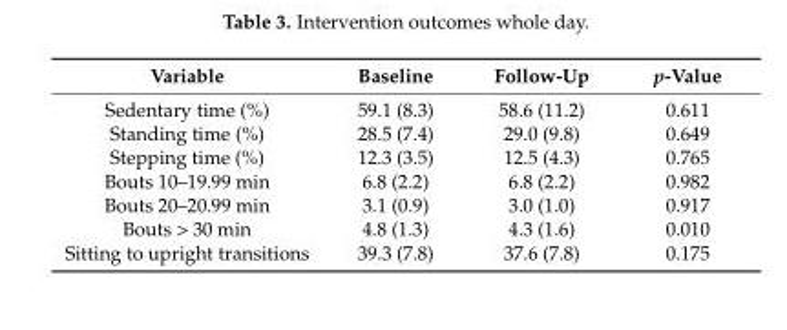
<table><thead><tr><td>Variable</td><td>Baseline</td><td>Follow-Up</td><td>p-Value</td></tr></thead><tbody><tr><td>Sedentary time (%)</td><td>59.1 (8.3)</td><td>58.6 (11.2)</td><td>0.611</td></tr><tr><td>Standing time (%)</td><td>28.5 (7.4)</td><td>29.0 (9.8)</td><td>0.649</td></tr><tr><td>Stepping time (%)</td><td>12.3 (3.5)</td><td>12.5 (4.3)</td><td>0.765</td></tr><tr><td>Bouts 10–19.99 min</td><td>6.8 (2.2)</td><td>6.8 (2.2)</td><td>0.982</td></tr><tr><td>Bouts 20–20.99 min</td><td>3.1 (0.9)</td><td>3.0 (1.0)</td><td>0.917</td></tr><tr><td>Bouts &gt; 30 min</td><td>4.8 (1.3)</td><td>4.3 (1.6)</td><td>0.010</td></tr><tr><td>Sitting to upright transitions</td><td>39.3 (7.8)</td><td>37.6 (7.8)</td><td>0.175</td></tr></tbody></table>